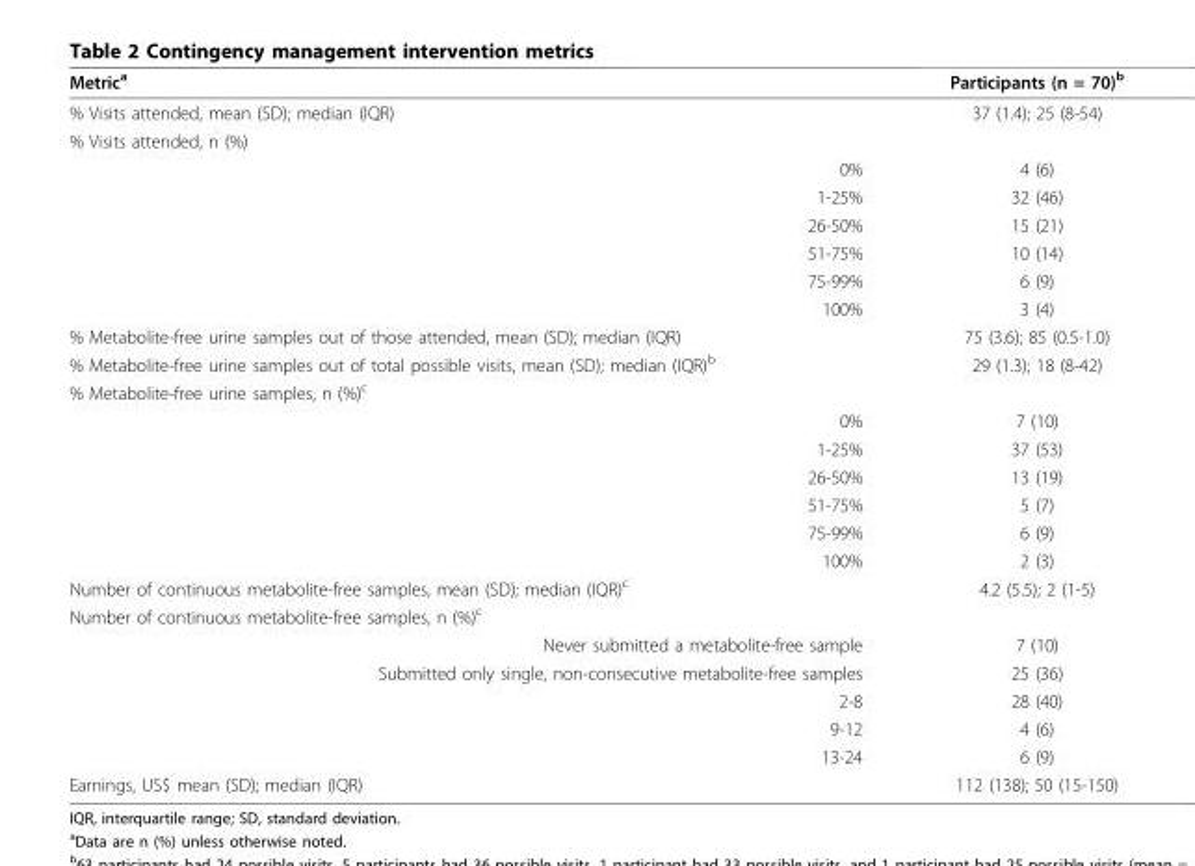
<table><thead><tr><td>Metric<sup>a</sup></td><td>Participants (n = 70)<sup>b</sup></td></tr></thead><tbody><tr><td>% Visits attended, mean (SD); median (IQR)</td><td>37 (1.4); 25 (8-54)</td></tr><tr><td colspan="2">% Visits attended, n (%)</td></tr><tr><td>0%</td><td>4 (6)</td></tr><tr><td>1-25%</td><td>32 (46)</td></tr><tr><td>26-50%</td><td>15 (21)</td></tr><tr><td>51-75%</td><td>10 (14)</td></tr><tr><td>75-99%</td><td>6 (9)</td></tr><tr><td>100%</td><td>3 (4)</td></tr><tr><td>% Metabolite-free urine samples out of those attended, mean (SD); median (IQR)</td><td>75 (3.6); 85 (0.5-1.0)</td></tr><tr><td>% Metabolite-free urine samples out of total possible visits, mean (SD); median (IQR)<sup>b</sup></td><td>29 (1.3); 18 (8-42)</td></tr><tr><td colspan="2">% Metabolite-free urine samples, n (%)<sup>c</sup></td></tr><tr><td>0%</td><td>7 (10)</td></tr><tr><td>1-25%</td><td>37 (53)</td></tr><tr><td>26-50%</td><td>13 (19)</td></tr><tr><td>51-75%</td><td>5 (7)</td></tr><tr><td>75-99%</td><td>6 (9)</td></tr><tr><td>100%</td><td>2 (3)</td></tr><tr><td>Number of continuous metabolite-free samples, mean (SD); median (IQR)<sup>c</sup></td><td>4.2 (5.5); 2 (1-5)</td></tr><tr><td colspan="2">Number of continuous metabolite-free samples, n (%)<sup>c</sup></td></tr><tr><td>Never submitted a metabolite-free sample</td><td>7 (10)</td></tr><tr><td>Submitted only single, non-consecutive metabolite-free samples</td><td>25 (36)</td></tr><tr><td>2-8</td><td>28 (40)</td></tr><tr><td>9-12</td><td>4 (6)</td></tr><tr><td>13-24</td><td>6 (9)</td></tr><tr><td>Earnings, US$ mean (SD); median (IQR)</td><td>112 (138); 50 (15-150)</td></tr></tbody></table>